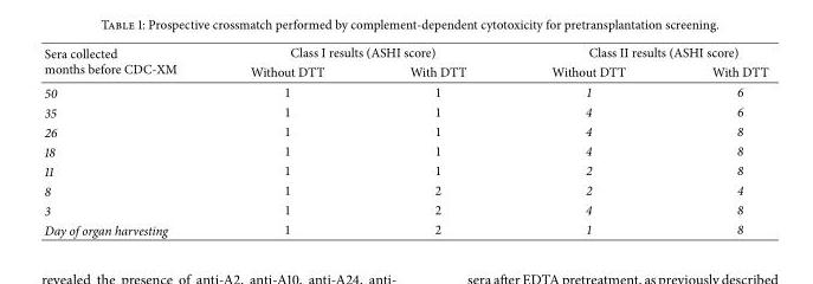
<table><thead><tr><td rowspan="2">Sera collected months before CDC-XM</td><td colspan="2">Class I results (ASHI score)</td><td colspan="2">Class II results (ASHI score)</td></tr><tr><td>Without DTT</td><td>With DTT</td><td>Without DTT</td><td>With DTT</td></tr></thead><tbody><tr><td>50</td><td>1</td><td>1</td><td>1</td><td>6</td></tr><tr><td>35</td><td>1</td><td>1</td><td>4</td><td>6</td></tr><tr><td>26</td><td>1</td><td>1</td><td>4</td><td>8</td></tr><tr><td>18</td><td>1</td><td>1</td><td>4</td><td>8</td></tr><tr><td>11</td><td>1</td><td>1</td><td>2</td><td>8</td></tr><tr><td>8</td><td>1</td><td>2</td><td>2</td><td>4</td></tr><tr><td>3</td><td>1</td><td>2</td><td>4</td><td>8</td></tr><tr><td>Day of organ harvesting</td><td>1</td><td>2</td><td>1</td><td>8</td></tr></tbody></table>